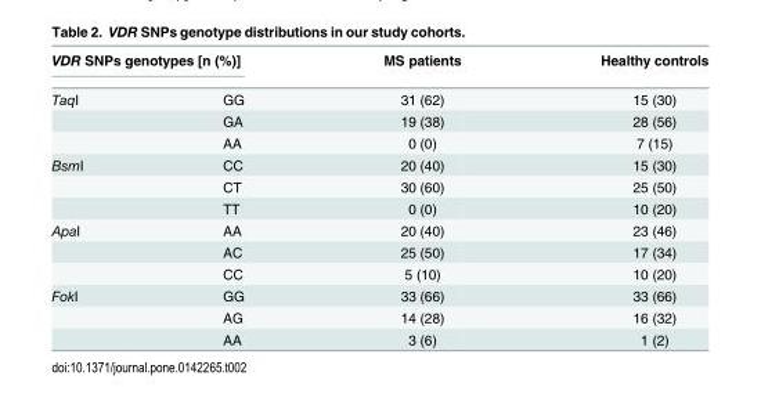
<table><thead><tr><td colspan="2">VDR SNPs genotypes [n (%)]</td><td rowspan="2">MS patients 31 (62)</td><td rowspan="2">Healthy controls 15 (30)</td></tr><tr><td>TaqI</td><td>GG</td></tr></thead><tbody><tr><td></td><td>GA</td><td>19 (38)</td><td>28 (56)</td></tr><tr><td></td><td>AA</td><td>0 (0)</td><td>7 (15)</td></tr><tr><td rowspan="3">BsmI</td><td>CC</td><td>20 (40)</td><td>15 (30)</td></tr><tr><td>CT</td><td>30 (60)</td><td>25 (50)</td></tr><tr><td>TT</td><td>0 (0)</td><td>10 (20)</td></tr><tr><td rowspan="3">ApaI</td><td>AA</td><td>20 (40)</td><td>23 (46)</td></tr><tr><td>AC</td><td>25 (50)</td><td>17 (34)</td></tr><tr><td>CC</td><td>5 (10)</td><td>10 (20)</td></tr><tr><td rowspan="3">FokI</td><td>GG</td><td>33 (66)</td><td>33 (66)</td></tr><tr><td>AG</td><td>14 (28)</td><td>16 (32)</td></tr><tr><td>AA</td><td>3 (6)</td><td>1 (2)</td></tr></tbody></table>